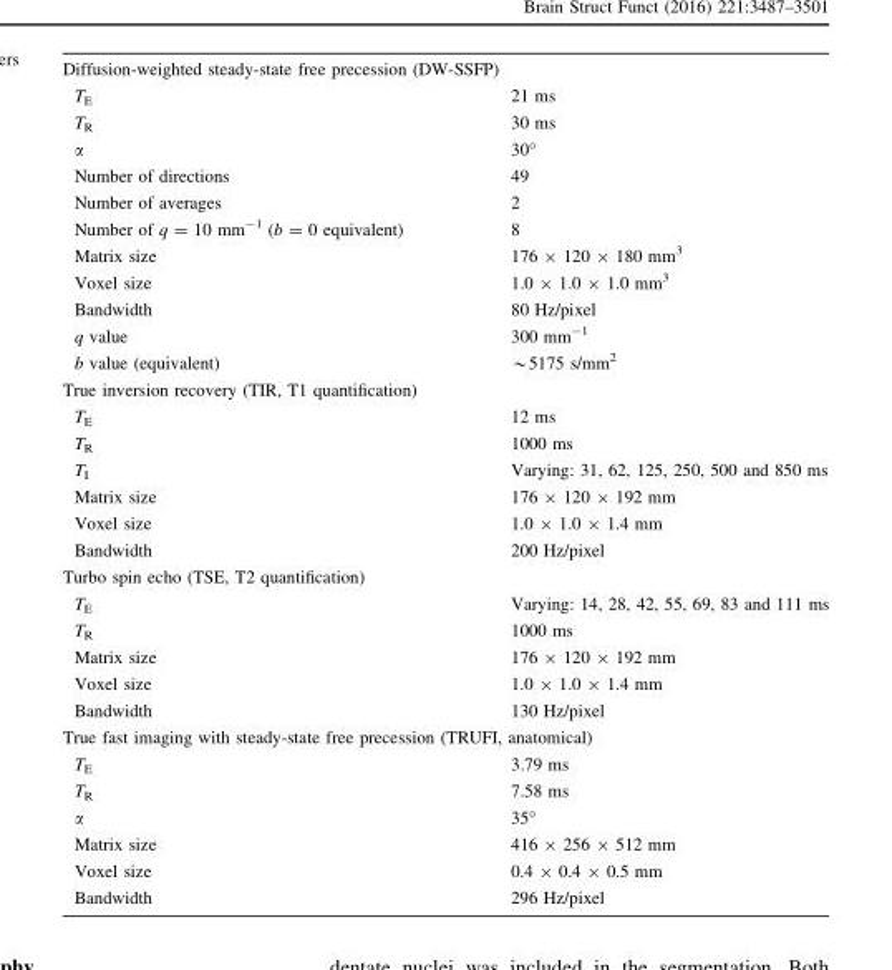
<table><tbody><tr><td colspan="2">Diffusion-weighted steady-state free precession (DW-SSFP)</td></tr><tr><td>T<sub>E</sub></td><td>21 ms</td></tr><tr><td>T<sub>R</sub></td><td>30 ms</td></tr><tr><td>α</td><td>30°</td></tr><tr><td>Number of directions</td><td>49</td></tr><tr><td>Number of averages</td><td>2</td></tr><tr><td>Number of q = 10 mm<sup>-1</sup> (b = 0 equivalent)</td><td>8</td></tr><tr><td>Matrix size</td><td>176 × 120 × 180 mm<sup>3</sup></td></tr><tr><td>Voxel size</td><td>1.0 × 1.0 × 1.0 mm<sup>3</sup></td></tr><tr><td>Bandwidth</td><td>80 Hz/pixel</td></tr><tr><td>q value</td><td>300 mm<sup>-1</sup></td></tr><tr><td>b value (equivalent)</td><td>*5175 s/mm2</td></tr><tr><td colspan="2">True inversion recovery (TIR, T1 quantification)</td></tr><tr><td>T<sub>E</sub></td><td>12 ms</td></tr><tr><td>T<sub>R</sub></td><td>1000 ms</td></tr><tr><td>T<sub>I</sub></td><td>Varying: 31, 62, 125, 250, 500 and 850 ms</td></tr><tr><td>Matrix size</td><td>176 × 120 × 192 mm</td></tr><tr><td>Voxel size</td><td>1.0 × 1.0 × 1.4 mm</td></tr><tr><td>Bandwidth</td><td>200 Hz/pixel</td></tr><tr><td colspan="2">Turbo spin echo (TSE, T2 quantification)</td></tr><tr><td>T<sub>E</sub></td><td>Varying: 14, 28, 42, 55, 69, 83 and 111 ms</td></tr><tr><td>T<sub>R</sub></td><td>1000 ms</td></tr><tr><td>Matrix size</td><td>176 × 120 × 192 mm</td></tr><tr><td>Voxel size</td><td>1.0 × 1.0 × 1.4 mm</td></tr><tr><td>Bandwidth</td><td>130 Hz/pixel</td></tr><tr><td colspan="2">True fast imaging with steady-state free precession (TRUFI, anatomical)</td></tr><tr><td>T<sub>E</sub></td><td>3.79 ms</td></tr><tr><td>T<sub>R</sub></td><td>7.58 ms</td></tr><tr><td>α</td><td>35°</td></tr><tr><td>Matrix size</td><td>416 × 256 × 512 mm</td></tr><tr><td>Voxel size</td><td>0.4 × 0.4 × 0.5 mm</td></tr><tr><td>Bandwidth</td><td>296 Hz/pixel</td></tr></tbody></table>